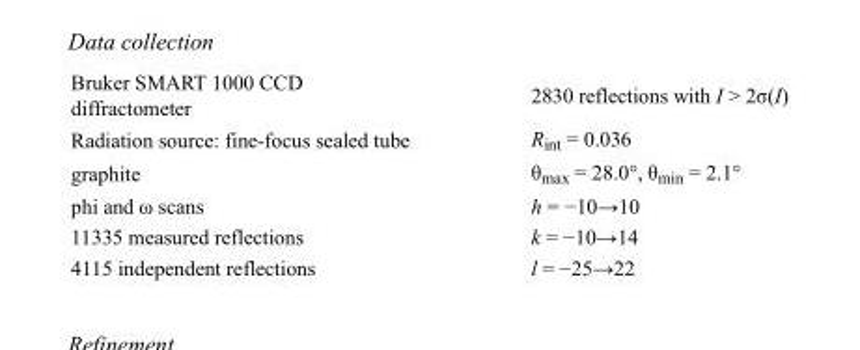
<table><tbody><tr><td>Bruker SMART 1000 CCD diffractometer</td><td>2830 reflections with I &gt; 2σ(I)</td></tr><tr><td>Radiation source: fine-focus sealed tube</td><td>R<sub>int</sub> = 0.036</td></tr><tr><td>graphite</td><td>θ<sub>max</sub> = 28.0°, θ<sub>min</sub> = 2.1°</td></tr><tr><td>phi and ω scans</td><td>h = −10→10</td></tr><tr><td>11335 measured reflections</td><td>k = −10→14</td></tr><tr><td>4115 independent reflections</td><td>l = −25→22</td></tr></tbody></table>